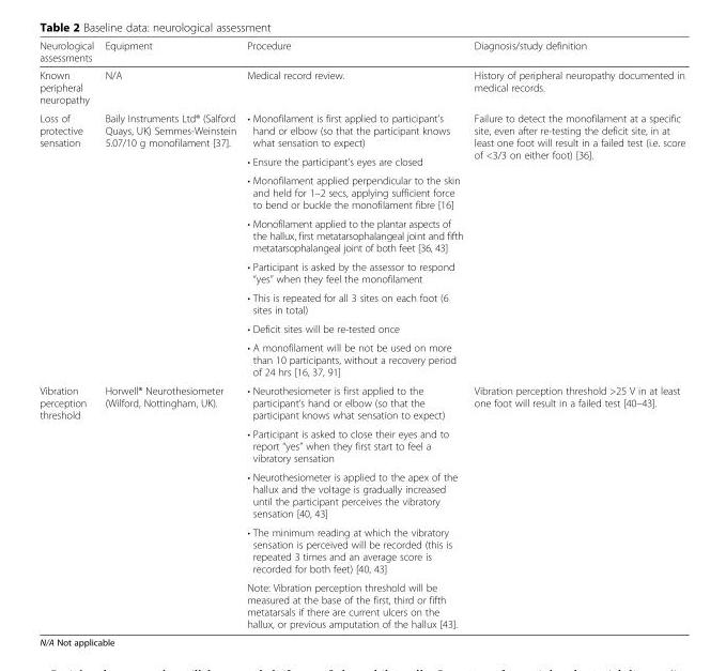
<table><thead><tr><td>Neurological assessments</td><td>Equipment</td><td>Procedure</td><td>Diagnosis/study definition</td></tr></thead><tbody><tr><td>Known peripheral neuropathy</td><td>N/A</td><td>Medical record review.</td><td>History of peripheral neuropathy documented in medical records.</td></tr><tr><td rowspan="8">Loss of protective sensation</td><td rowspan="8">Baily Instruments Ltd® (Salford Quays, UK) Semmes-Weinstein 5.07/10 g monofilament [37].</td><td>• Monofilament is first applied to participant’s hand or elbow (so that the participant knows what sensation to expect)</td><td rowspan="8">Failure to detect the monofilament at a specific site, even after re-testing the deficit site, in at least one foot will result in a failed test (i.e. score of &lt;3/3 on either foot) [36].</td></tr><tr><td>• Ensure the participant’s eyes are closed</td></tr><tr><td>• Monofilament applied perpendicular to the skin and held for 1–2 secs, applying sufficient force to bend or buckle the monofilament fibre [16]</td></tr><tr><td>• Monofilament applied to the plantar aspects of the hallux, first metatarsophalangeal joint and fifth metatarsophalangeal joint of both feet [36, 43]</td></tr><tr><td>• Participant is asked by the assessor to respond “yes” when they feel the monofilament</td></tr><tr><td>• This is repeated for all 3 sites on each foot (6 sites in total)</td></tr><tr><td>• Deficit sites will be re-tested once</td></tr><tr><td>• A monofilament will be not be used on more than 10 participants, without a recovery period of 24 hrs [16, 37, 91]</td></tr><tr><td rowspan="5">Vibration perception threshold</td><td rowspan="5">Horwell® Neurothesiometer (Wilford, Nottingham, UK).</td><td>• Neurothesiometer is first applied to the participant’s hand or elbow (so that the participant knows what sensation to expect)</td><td rowspan="5">Vibration perception threshold &gt;25 V in at least one foot will result in a failed test [40–43].</td></tr><tr><td>• Participant is asked to close their eyes and to report “yes” when they first start to feel a vibratory sensation</td></tr><tr><td>• Neurothesiometer is applied to the apex of the hallux and the voltage is gradually increased until the participant perceives the vibratory sensation [40, 43]</td></tr><tr><td>• The minimum reading at which the vibratory sensation is perceived will be recorded (this is repeated 3 times and an average score is recorded for both feet) [40, 43]</td></tr><tr><td>Note: Vibration perception threshold will be measured at the base of the first, third or fifth metatarsals if there are current ulcers on the hallux, or previous amputation of the hallux [43].</td></tr></tbody></table>